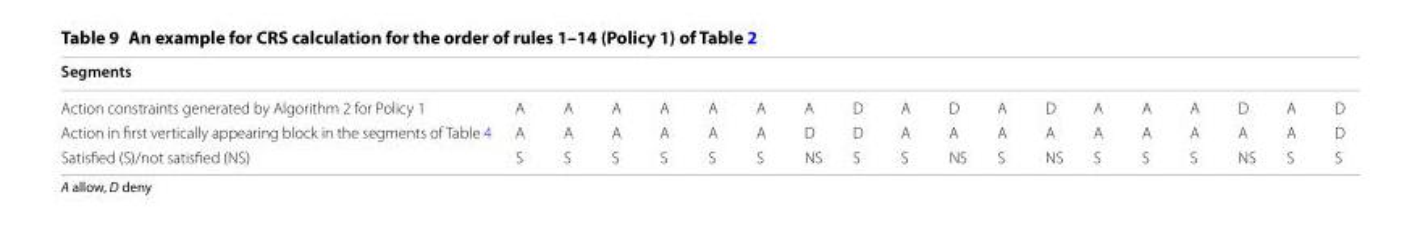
<table><thead><tr><td>Segments</td><td></td><td></td><td></td><td></td><td></td><td></td><td></td><td></td><td></td><td></td><td></td><td></td><td></td><td></td><td></td><td></td><td></td><td></td></tr></thead><tbody><tr><td>Action constraints generated by Algorithm 2 for Policy 1</td><td>A</td><td>A</td><td>A</td><td>A</td><td>A</td><td>A</td><td>A</td><td>D</td><td>A</td><td>D</td><td>A</td><td>D</td><td>A</td><td>A</td><td>A</td><td>D</td><td>A</td><td>D</td></tr><tr><td>Action in first vertically appearing block in the segments of Table 4</td><td>A</td><td>A</td><td>A</td><td>A</td><td>A</td><td>A</td><td>D</td><td>D</td><td>A</td><td>A</td><td>A</td><td>A</td><td>A</td><td>A</td><td>A</td><td>A</td><td>A</td><td>D</td></tr><tr><td>Satisfied (S)/not satisfied (NS)</td><td>S</td><td>S</td><td>S</td><td>S</td><td>S</td><td>S</td><td>NS</td><td>S</td><td>S</td><td>NS</td><td>S</td><td>NS</td><td>S</td><td>S</td><td>S</td><td>NS</td><td>S</td><td>S</td></tr></tbody></table>